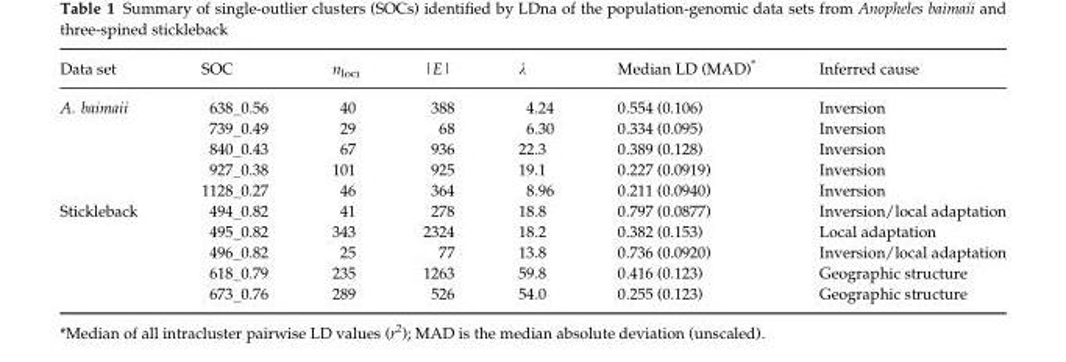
<table><thead><tr><td>Data set</td><td>SOC</td><td>n<sub>loci</sub></td><td>|E|</td><td>λ</td><td>Median LD (MAD)*</td><td>Inferred cause</td></tr></thead><tbody><tr><td rowspan="5">A. baimaii</td><td>638_0.56</td><td>40</td><td>388</td><td>4.24</td><td>0.554 (0.106)</td><td>Inversion</td></tr><tr><td>739_0.49</td><td>29</td><td>68</td><td>6.30</td><td>0.334 (0.095)</td><td>Inversion</td></tr><tr><td>840_0.43</td><td>67</td><td>936</td><td>22.3</td><td>0.389 (0.128)</td><td>Inversion</td></tr><tr><td>927_0.38</td><td>101</td><td>925</td><td>19.1</td><td>0.227 (0.0919)</td><td>Inversion</td></tr><tr><td>1128_0.27</td><td>46</td><td>364</td><td>8.96</td><td>0.211 (0.0940)</td><td>Inversion</td></tr><tr><td rowspan="5">Stickleback</td><td>494_0.82</td><td>41</td><td>278</td><td>18.8</td><td>0.797 (0.0877)</td><td>Inversion/local adaptation</td></tr><tr><td>495_0.82</td><td>343</td><td>2324</td><td>18.2</td><td>0.382 (0.153)</td><td>Local adaptation</td></tr><tr><td>496_0.82</td><td>25</td><td>77</td><td>13.8</td><td>0.736 (0.0920)</td><td>Inversion/local adaptation</td></tr><tr><td>618_0.79</td><td>235</td><td>1263</td><td>59.8</td><td>0.416 (0.123)</td><td>Geographic structure</td></tr><tr><td>673_0.76</td><td>289</td><td>526</td><td>54.0</td><td>0.255 (0.123)</td><td>Geographic structure</td></tr></tbody></table>